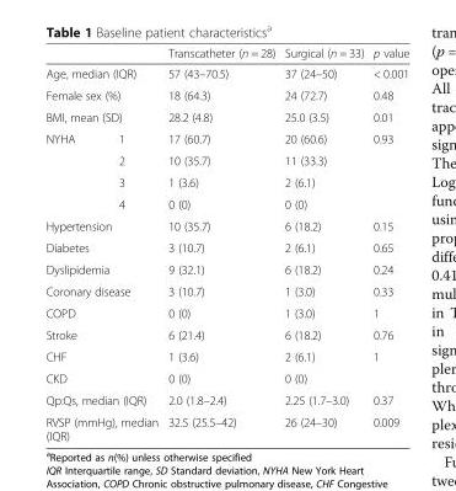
<table><thead><tr><td></td><td></td><td>Transcatheter (n = 28)</td><td>Surgical (n = 33)</td><td>p value</td></tr></thead><tbody><tr><td colspan="2">Age, median (IQR)</td><td>57 (43–70.5)</td><td>37 (24–50)</td><td>&lt; 0.001</td></tr><tr><td colspan="2">Female sex (%)</td><td>18 (64.3)</td><td>24 (72.7)</td><td>0.48</td></tr><tr><td colspan="2">BMI, mean (SD)</td><td>28.2 (4.8)</td><td>25.0 (3.5)</td><td>0.01</td></tr><tr><td rowspan="4">NYHA</td><td>1</td><td>17 (60.7)</td><td>20 (60.6)</td><td>0.93</td></tr><tr><td>2</td><td>10 (35.7)</td><td>11 (33.3)</td><td></td></tr><tr><td>3</td><td>1 (3.6)</td><td>2 (6.1)</td><td></td></tr><tr><td>4</td><td>0 (0)</td><td>0 (0)</td><td></td></tr><tr><td colspan="2">Hypertension</td><td>10 (35.7)</td><td>6 (18.2)</td><td>0.15</td></tr><tr><td colspan="2">Diabetes</td><td>3 (10.7)</td><td>2 (6.1)</td><td>0.65</td></tr><tr><td colspan="2">Dyslipidemia</td><td>9 (32.1)</td><td>6 (18.2)</td><td>0.24</td></tr><tr><td colspan="2">Coronary disease</td><td>3 (10.7)</td><td>1 (3.0)</td><td>0.33</td></tr><tr><td colspan="2">COPD</td><td>0 (0)</td><td>1 (3.0)</td><td>1</td></tr><tr><td colspan="2">Stroke</td><td>6 (21.4)</td><td>6 (18.2)</td><td>0.76</td></tr><tr><td colspan="2">CHF</td><td>1 (3.6)</td><td>2 (6.1)</td><td>1</td></tr><tr><td colspan="2">CKD</td><td>0 (0)</td><td>0 (0)</td><td></td></tr><tr><td colspan="2">Qp:Qs, median (IQR)</td><td>2.0 (1.8–2.4)</td><td>2.25 (1.7–3.0)</td><td>0.37</td></tr><tr><td colspan="2">RVSP (mmHg), median (IQR)</td><td>32.5 (25.5–42)</td><td>26 (24–30)</td><td>0.009</td></tr></tbody></table>